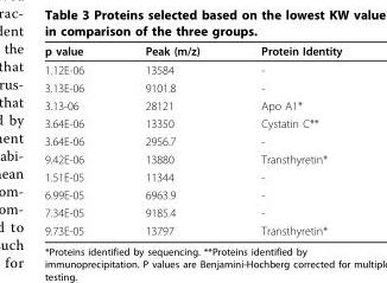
<table><thead><tr><td>p value</td><td>Peak (m/z)</td><td>Protein Identity</td></tr></thead><tbody><tr><td>1.12E-06</td><td>13584</td><td>-</td></tr><tr><td>3.13E-06</td><td>9101.8</td><td>-</td></tr><tr><td>3.13-06</td><td>28121</td><td>Apo A1*</td></tr><tr><td>3.64E-06</td><td>13350</td><td>Cystatin C**</td></tr><tr><td>3.64E-06</td><td>2956.7</td><td>-</td></tr><tr><td>9.42E-06</td><td>13880</td><td>Transthyretin*</td></tr><tr><td>1.51E-05</td><td>11344</td><td>-</td></tr><tr><td>6.99E-05</td><td>6963.9</td><td>-</td></tr><tr><td>7.34E-05</td><td>9185.4</td><td>-</td></tr><tr><td>9.73E-05</td><td>13797</td><td>Transthyretin*</td></tr></tbody></table>